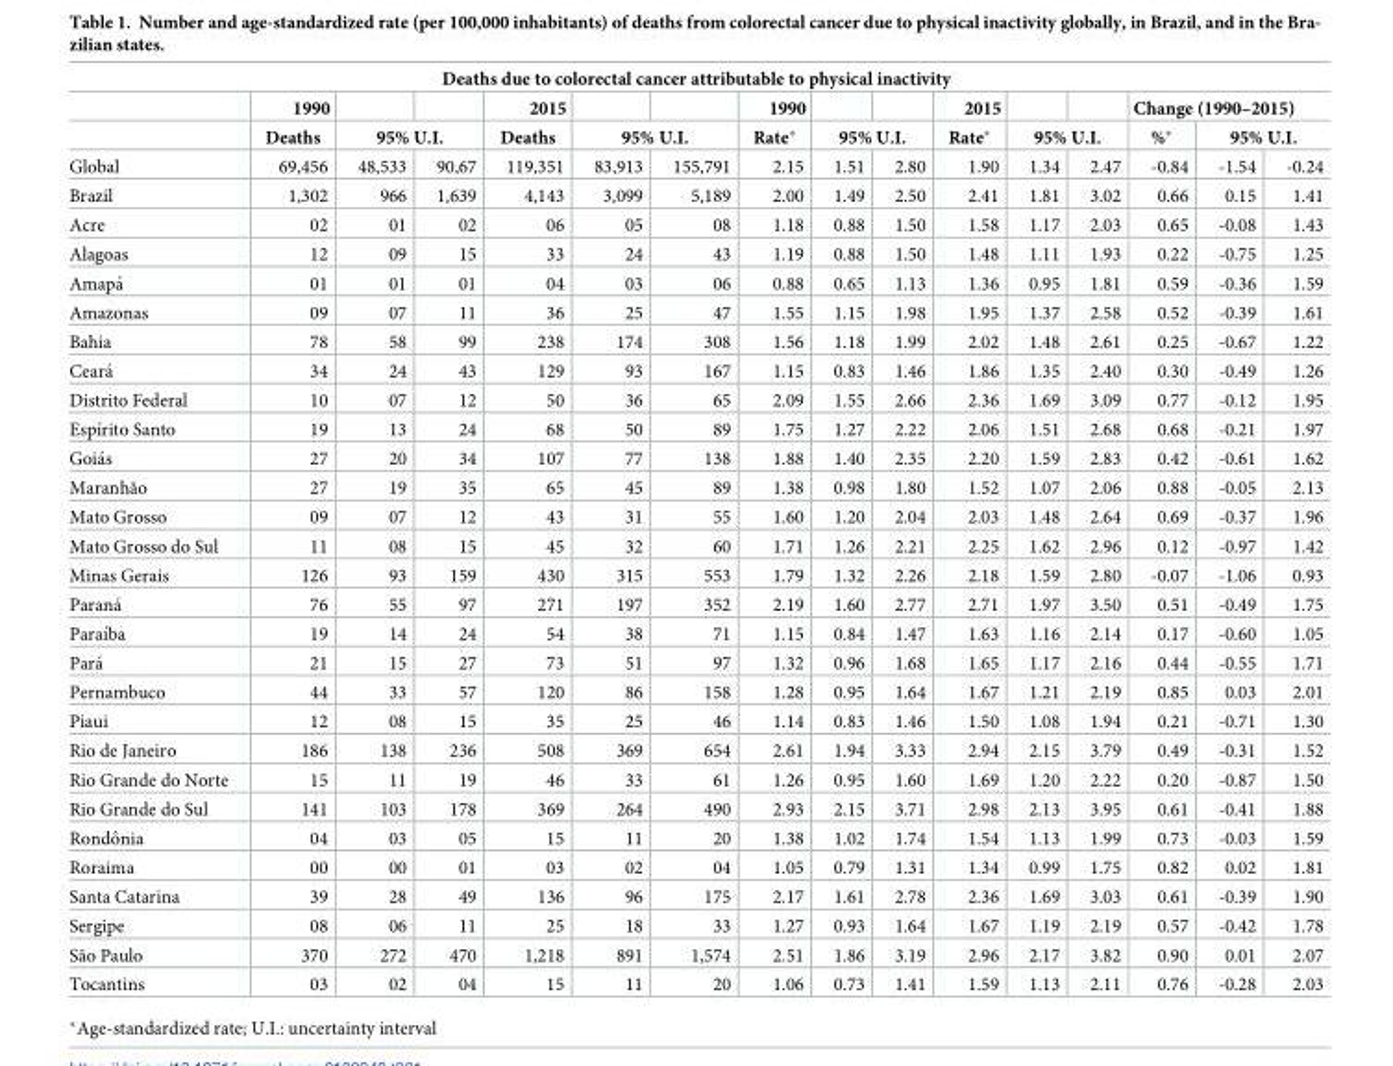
<table><thead><tr><td colspan="16">Deaths due to colorectal cancer attributable to physical inactivity</td></tr><tr><td rowspan="3">Global</td><td rowspan="3">1990 Deaths 69,456</td><td></td><td></td><td rowspan="3">2015 Deaths 119,351</td><td></td><td></td><td rowspan="3">1990 Rate* 2.15</td><td></td><td></td><td rowspan="3">2015 Rate* 1.90</td><td></td><td></td><td colspan="3">Change (1990–2015)</td></tr><tr><td colspan="2">95% U.I.</td><td colspan="2">95% U.I.</td><td colspan="2">95% U.I.</td><td colspan="2">95% U.I.</td><td rowspan="2">%* -0.84</td><td colspan="2">95% U.I.</td></tr><tr><td>48,533</td><td>90,67</td><td>83,913</td><td>155,791</td><td>1.51</td><td>2.80</td><td>1.34</td><td>2.47</td><td>-1.54</td><td>-0.24</td></tr></thead><tbody><tr><td>Brazil</td><td>1,302</td><td>966</td><td>1,639</td><td>4,143</td><td>3,099</td><td>5,189</td><td>2.00</td><td>1.49</td><td>2.50</td><td>2.41</td><td>1.81</td><td>3.02</td><td>0.66</td><td>0.15</td><td>1.41</td></tr><tr><td>Acre</td><td>02</td><td>01</td><td>02</td><td>06</td><td>05</td><td>08</td><td>1.18</td><td>0.88</td><td>1.50</td><td>1.58</td><td>1.17</td><td>2.03</td><td>0.65</td><td>-0.08</td><td>1.43</td></tr><tr><td>Alagoas</td><td>12</td><td>09</td><td>15</td><td>33</td><td>24</td><td>43</td><td>1.19</td><td>0.88</td><td>1.50</td><td>1.48</td><td>1.11</td><td>1.93</td><td>0.22</td><td>-0.75</td><td>1.25</td></tr><tr><td>Amapa´</td><td>01</td><td>01</td><td>01</td><td>04</td><td>03</td><td>06</td><td>0.88</td><td>0.65</td><td>1.13</td><td>1.36</td><td>0.95</td><td>1.81</td><td>0.59</td><td>-0.36</td><td>1.59</td></tr><tr><td>Amazonas</td><td>09</td><td>07</td><td>11</td><td>36</td><td>25</td><td>47</td><td>1.55</td><td>1.15</td><td>1.98</td><td>1.95</td><td>1.37</td><td>2.58</td><td>0.52</td><td>-0.39</td><td>1.61</td></tr><tr><td>Bahia</td><td>78</td><td>58</td><td>99</td><td>238</td><td>174</td><td>308</td><td>1.56</td><td>1.18</td><td>1.99</td><td>2.02</td><td>1.48</td><td>2.61</td><td>0.25</td><td>-0.67</td><td>1.22</td></tr><tr><td>Ceara´</td><td>34</td><td>24</td><td>43</td><td>129</td><td>93</td><td>167</td><td>1.15</td><td>0.83</td><td>1.46</td><td>1.86</td><td>1.35</td><td>2.40</td><td>0.30</td><td>-0.49</td><td>1.26</td></tr><tr><td>Distrito Federal</td><td>10</td><td>07</td><td>12</td><td>50</td><td>36</td><td>65</td><td>2.09</td><td>1.55</td><td>2.66</td><td>2.36</td><td>1.69</td><td>3.09</td><td>0.77</td><td>-0.12</td><td>1.95</td></tr><tr><td>Espı´rito Santo</td><td>19</td><td>13</td><td>24</td><td>68</td><td>50</td><td>89</td><td>1.75</td><td>1.27</td><td>2.22</td><td>2.06</td><td>1.51</td><td>2.68</td><td>0.68</td><td>-0.21</td><td>1.97</td></tr><tr><td>Goia´s</td><td>27</td><td>20</td><td>34</td><td>107</td><td>77</td><td>138</td><td>1.88</td><td>1.40</td><td>2.35</td><td>2.20</td><td>1.59</td><td>2.83</td><td>0.42</td><td>-0.61</td><td>1.62</td></tr><tr><td>Maranhão</td><td>27</td><td>19</td><td>35</td><td>65</td><td>45</td><td>89</td><td>1.38</td><td>0.98</td><td>1.80</td><td>1.52</td><td>1.07</td><td>2.06</td><td>0.88</td><td>-0.05</td><td>2.13</td></tr><tr><td>Mato Grosso</td><td>09</td><td>07</td><td>12</td><td>43</td><td>31</td><td>55</td><td>1.60</td><td>1.20</td><td>2.04</td><td>2.03</td><td>1.48</td><td>2.64</td><td>0.69</td><td>-0.37</td><td>1.96</td></tr><tr><td>Mato Grosso do Sul</td><td>11</td><td>08</td><td>15</td><td>45</td><td>32</td><td>60</td><td>1.71</td><td>1.26</td><td>2.21</td><td>2.25</td><td>1.62</td><td>2.96</td><td>0.12</td><td>-0.97</td><td>1.42</td></tr><tr><td>Minas Gerais</td><td>126</td><td>93</td><td>159</td><td>430</td><td>315</td><td>553</td><td>1.79</td><td>1.32</td><td>2.26</td><td>2.18</td><td>1.59</td><td>2.80</td><td>-0.07</td><td>-1.06</td><td>0.93</td></tr><tr><td>Parana´</td><td>76</td><td>55</td><td>97</td><td>271</td><td>197</td><td>352</td><td>2.19</td><td>1.60</td><td>2.77</td><td>2.71</td><td>1.97</td><td>3.50</td><td>0.51</td><td>-0.49</td><td>1.75</td></tr><tr><td>Paraı´ba</td><td>19</td><td>14</td><td>24</td><td>54</td><td>38</td><td>71</td><td>1.15</td><td>0.84</td><td>1.47</td><td>1.63</td><td>1.16</td><td>2.14</td><td>0.17</td><td>-0.60</td><td>1.05</td></tr><tr><td>Para´</td><td>21</td><td>15</td><td>27</td><td>73</td><td>51</td><td>97</td><td>1.32</td><td>0.96</td><td>1.68</td><td>1.65</td><td>1.17</td><td>2.16</td><td>0.44</td><td>-0.55</td><td>1.71</td></tr><tr><td>Pernambuco</td><td>44</td><td>33</td><td>57</td><td>120</td><td>86</td><td>158</td><td>1.28</td><td>0.95</td><td>1.64</td><td>1.67</td><td>1.21</td><td>2.19</td><td>0.85</td><td>0.03</td><td>2.01</td></tr><tr><td>Piaui</td><td>12</td><td>08</td><td>15</td><td>35</td><td>25</td><td>46</td><td>1.14</td><td>0.83</td><td>1.46</td><td>1.50</td><td>1.08</td><td>1.94</td><td>0.21</td><td>-0.71</td><td>1.30</td></tr><tr><td>Rio de Janeiro</td><td>186</td><td>138</td><td>236</td><td>508</td><td>369</td><td>654</td><td>2.61</td><td>1.94</td><td>3.33</td><td>2.94</td><td>2.15</td><td>3.79</td><td>0.49</td><td>-0.31</td><td>1.52</td></tr><tr><td>Rio Grande do Norte</td><td>15</td><td>11</td><td>19</td><td>46</td><td>33</td><td>61</td><td>1.26</td><td>0.95</td><td>1.60</td><td>1.69</td><td>1.20</td><td>2.22</td><td>0.20</td><td>-0.87</td><td>1.50</td></tr><tr><td>Rio Grande do Sul</td><td>141</td><td>103</td><td>178</td><td>369</td><td>264</td><td>490</td><td>2.93</td><td>2.15</td><td>3.71</td><td>2.98</td><td>2.13</td><td>3.95</td><td>0.61</td><td>-0.41</td><td>1.88</td></tr><tr><td>Rondoˆnia</td><td>04</td><td>03</td><td>05</td><td>15</td><td>11</td><td>20</td><td>1.38</td><td>1.02</td><td>1.74</td><td>1.54</td><td>1.13</td><td>1.99</td><td>0.73</td><td>-0.03</td><td>1.59</td></tr><tr><td>Roraima</td><td>00</td><td>00</td><td>01</td><td>03</td><td>02</td><td>04</td><td>1.05</td><td>0.79</td><td>1.31</td><td>1.34</td><td>0.99</td><td>1.75</td><td>0.82</td><td>0.02</td><td>1.81</td></tr><tr><td>Santa Catarina</td><td>39</td><td>28</td><td>49</td><td>136</td><td>96</td><td>175</td><td>2.17</td><td>1.61</td><td>2.78</td><td>2.36</td><td>1.69</td><td>3.03</td><td>0.61</td><td>-0.39</td><td>1.90</td></tr><tr><td>Sergipe</td><td>08</td><td>06</td><td>11</td><td>25</td><td>18</td><td>33</td><td>1.27</td><td>0.93</td><td>1.64</td><td>1.67</td><td>1.19</td><td>2.19</td><td>0.57</td><td>-0.42</td><td>1.78</td></tr><tr><td>São Paulo</td><td>370</td><td>272</td><td>470</td><td>1,218</td><td>891</td><td>1,574</td><td>2.51</td><td>1.86</td><td>3.19</td><td>2.96</td><td>2.17</td><td>3.82</td><td>0.90</td><td>0.01</td><td>2.07</td></tr><tr><td>Tocantins</td><td>03</td><td>02</td><td>04</td><td>15</td><td>11</td><td>20</td><td>1.06</td><td>0.73</td><td>1.41</td><td>1.59</td><td>1.13</td><td>2.11</td><td>0.76</td><td>-0.28</td><td>2.03</td></tr></tbody></table>